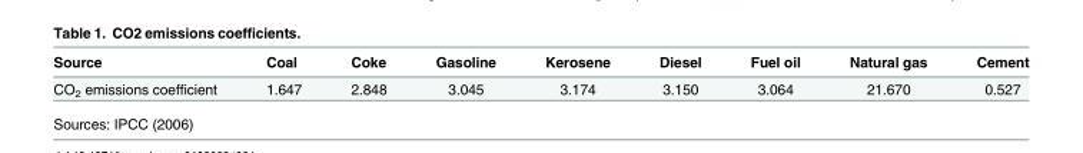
<table><thead><tr><td>Source</td><td>Coal</td><td>Coke</td><td>Gasoline</td><td>Kerosene</td><td>Diesel</td><td>Fuel oil</td><td>Natural gas</td><td>Cement</td></tr></thead><tbody><tr><td>CO<sub>2</sub> emissions coefficient</td><td>1.647</td><td>2.848</td><td>3.045</td><td>3.174</td><td>3.150</td><td>3.064</td><td>21.670</td><td>0.527</td></tr></tbody></table>